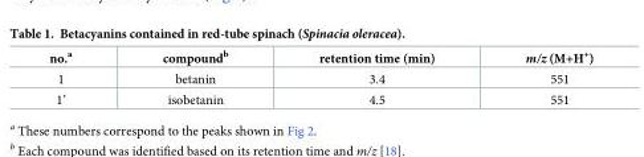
<table><thead><tr><td>no.<sup>a</sup></td><td>compound<sup>b</sup></td><td>retention time (min)</td><td>m/z (M+H<sup>+</sup>)</td></tr></thead><tbody><tr><td>1</td><td>betanin</td><td>3.4</td><td>551</td></tr><tr><td>1’</td><td>isobetanin</td><td>4.5</td><td>551</td></tr></tbody></table>